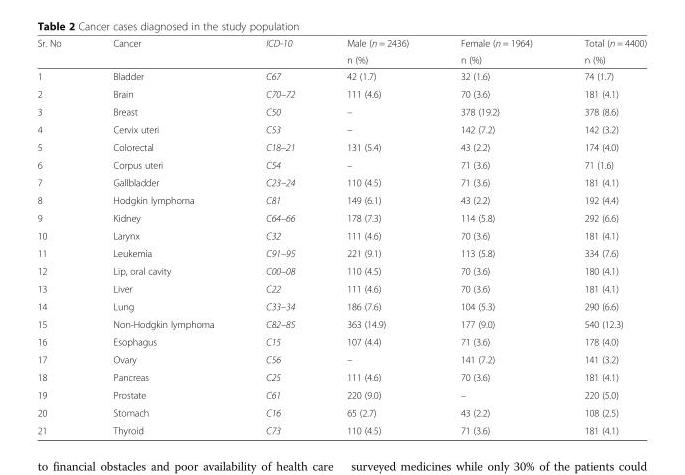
<table><thead><tr><td rowspan="2">Sr. No</td><td rowspan="2">Cancer</td><td rowspan="2">ICD-10</td><td rowspan="2">Male (n = 2436) n (%)</td><td rowspan="2">Female (n = 1964) n (%)</td><td rowspan="2">Total (n = 4400) n (%)</td></tr><tr></tr></thead><tbody><tr><td>1</td><td>Bladder</td><td>C67</td><td>42 (1.7)</td><td>32 (1.6)</td><td>74 (1.7)</td></tr><tr><td>2</td><td>Brain</td><td>C70–72</td><td>111 (4.6)</td><td>70 (3.6)</td><td>181 (4.1)</td></tr><tr><td>3</td><td>Breast</td><td>C50</td><td>–</td><td>378 (19.2)</td><td>378 (8.6)</td></tr><tr><td>4</td><td>Cervix uteri</td><td>C53</td><td>–</td><td>142 (7.2)</td><td>142 (3.2)</td></tr><tr><td>5</td><td>Colorectal</td><td>C18–21</td><td>131 (5.4)</td><td>43 (2.2)</td><td>174 (4.0)</td></tr><tr><td>6</td><td>Corpus uteri</td><td>C54</td><td>–</td><td>71 (3.6)</td><td>71 (1.6)</td></tr><tr><td>7</td><td>Gallbladder</td><td>C23–24</td><td>110 (4.5)</td><td>71 (3.6)</td><td>181 (4.1)</td></tr><tr><td>8</td><td>Hodgkin lymphoma</td><td>C81</td><td>149 (6.1)</td><td>43 (2.2)</td><td>192 (4.4)</td></tr><tr><td>9</td><td>Kidney</td><td>C64–66</td><td>178 (7.3)</td><td>114 (5.8)</td><td>292 (6.6)</td></tr><tr><td>10</td><td>Larynx</td><td>C32</td><td>111 (4.6)</td><td>70 (3.6)</td><td>181 (4.1)</td></tr><tr><td>11</td><td>Leukemia</td><td>C91–95</td><td>221 (9.1)</td><td>113 (5.8)</td><td>334 (7.6)</td></tr><tr><td>12</td><td>Lip, oral cavity</td><td>C00–08</td><td>110 (4.5)</td><td>70 (3.6)</td><td>180 (4.1)</td></tr><tr><td>13</td><td>Liver</td><td>C22</td><td>111 (4.6)</td><td>70 (3.6)</td><td>181 (4.1)</td></tr><tr><td>14</td><td>Lung</td><td>C33–34</td><td>186 (7.6)</td><td>104 (5.3)</td><td>290 (6.6)</td></tr><tr><td>15</td><td>Non-Hodgkin lymphoma</td><td>C82–85</td><td>363 (14.9)</td><td>177 (9.0)</td><td>540 (12.3)</td></tr><tr><td>16</td><td>Esophagus</td><td>C15</td><td>107 (4.4)</td><td>71 (3.6)</td><td>178 (4.0)</td></tr><tr><td>17</td><td>Ovary</td><td>C56</td><td>–</td><td>141 (7.2)</td><td>141 (3.2)</td></tr><tr><td>18</td><td>Pancreas</td><td>C25</td><td>111 (4.6)</td><td>70 (3.6)</td><td>181 (4.1)</td></tr><tr><td>19</td><td>Prostate</td><td>C61</td><td>220 (9.0)</td><td>–</td><td>220 (5.0)</td></tr><tr><td>20</td><td>Stomach</td><td>C16</td><td>65 (2.7)</td><td>43 (2.2)</td><td>108 (2.5)</td></tr><tr><td>21</td><td>Thyroid</td><td>C73</td><td>110 (4.5)</td><td>71 (3.6)</td><td>181 (4.1)</td></tr></tbody></table>